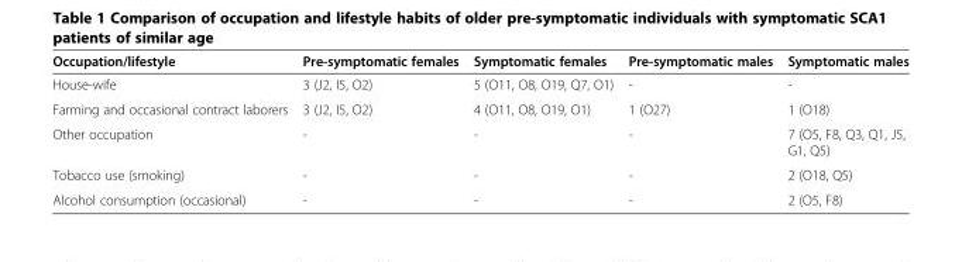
<table><thead><tr><td>Occupation/lifestyle</td><td>Pre-symptomatic females</td><td>Symptomatic females</td><td>Pre-symptomatic males</td><td>Symptomatic males</td></tr></thead><tbody><tr><td>House-wife</td><td>3 (J2, I5, O2)</td><td>5 (O11, O8, O19, Q7, O1)</td><td>-</td><td>-</td></tr><tr><td>Farming and occasional contract laborers</td><td>3 (J2, I5, O2)</td><td>4 (O11, O8, O19, O1)</td><td>1 (O27)</td><td>1 (O18)</td></tr><tr><td>Other occupation</td><td>-</td><td>-</td><td>-</td><td>7 (O5, F8, Q3, Q1, J5, G1, Q5)</td></tr><tr><td>Tobacco use (smoking)</td><td>-</td><td>-</td><td>-</td><td>2 (O18, Q5)</td></tr><tr><td>Alcohol consumption (occasional)</td><td>-</td><td>-</td><td>-</td><td>2 (O5, F8)</td></tr></tbody></table>